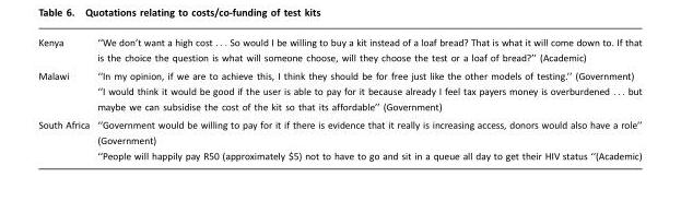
<table><tbody><tr><td>Kenya</td><td>‘‘We don’t want a high cost . . . So would I be willing to buy a kit instead of a loaf bread? That is what it will come down to. If that is the choice the question is what will someone choose, will they choose the test or a loaf of bread?’’ (Academic)</td></tr><tr><td>Malawi</td><td>‘‘In my opinion, if we are to achieve this, I think they should be for free just like the other models of testing.’’ (Government) ‘‘I would think it would be good if the user is able to pay for it because already I feel tax payers money is overburdened . . . but maybe we can subsidise the cost of the kit so that its affordable’’ (Government)</td></tr><tr><td>South Africa</td><td>‘‘Government would be willing to pay for it if there is evidence that it really is increasing access, donors would also have a role’’ (Government) ‘‘People will happily pay R50 (approximately $5) not to have to go and sit in a queue all day to get their HIV status ‘‘(Academic)</td></tr></tbody></table>